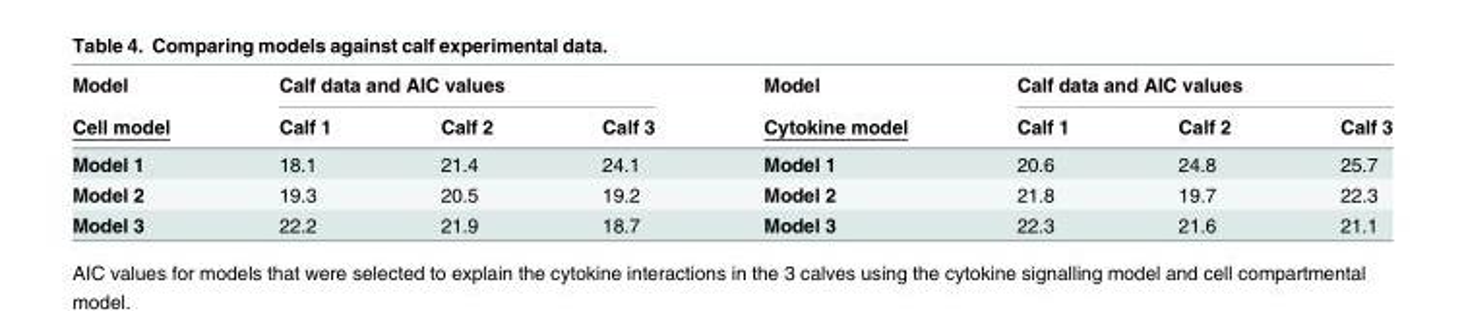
<table><thead><tr><td rowspan="2">Model Cell model</td><td colspan="3">Calf data and AIC values</td><td rowspan="2">Model Cytokine model</td><td colspan="3">Calf data and AIC values</td></tr><tr><td>Calf 1</td><td>Calf 2</td><td>Calf 3</td><td>Calf 1</td><td>Calf 2</td><td>Calf 3</td></tr></thead><tbody><tr><td>Model 1</td><td>18.1</td><td>21.4</td><td>24.1</td><td>Model 1</td><td>20.6</td><td>24.8</td><td>25.7</td></tr><tr><td>Model 2</td><td>19.3</td><td>20.5</td><td>19.2</td><td>Model 2</td><td>21.8</td><td>19.7</td><td>22.3</td></tr><tr><td>Model 3</td><td>22.2</td><td>21.9</td><td>18.7</td><td>Model 3</td><td>22.3</td><td>21.6</td><td>21.1</td></tr></tbody></table>